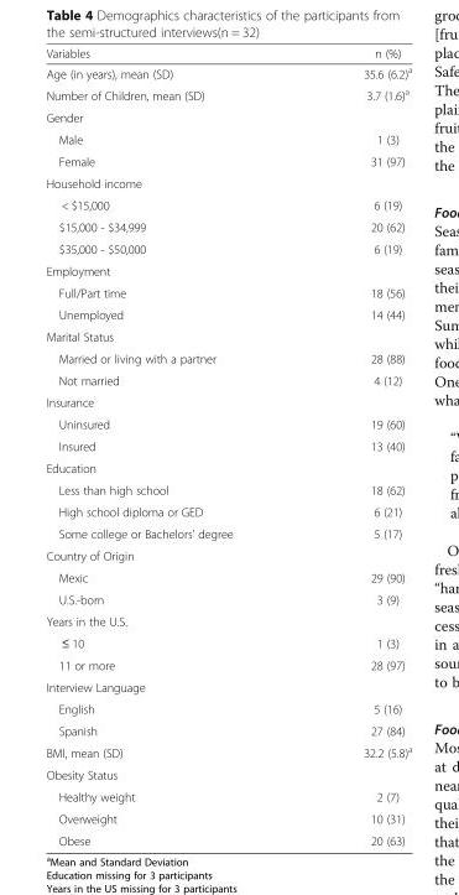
<table><thead><tr><td>Variables</td><td>n (%)</td></tr></thead><tbody><tr><td>Age (in years), mean (SD)</td><td>35.6 (6.2)<sup>a</sup></td></tr><tr><td>Number of Children, mean (SD)</td><td>3.7 (1.6)<sup>a</sup></td></tr><tr><td colspan="2">Gender</td></tr><tr><td>Male</td><td>1 (3)</td></tr><tr><td>Female</td><td>31 (97)</td></tr><tr><td colspan="2">Household income</td></tr><tr><td>&lt; $15,000</td><td>6 (19)</td></tr><tr><td>$15,000 - $34,999</td><td>20 (62)</td></tr><tr><td>$35,000 - $50,000</td><td>6 (19)</td></tr><tr><td colspan="2">Employment</td></tr><tr><td>Full/Part time</td><td>18 (56)</td></tr><tr><td>Unemployed</td><td>14 (44)</td></tr><tr><td colspan="2">Marital Status</td></tr><tr><td>Married or living with a partner</td><td>28 (88)</td></tr><tr><td>Not married</td><td>4 (12)</td></tr><tr><td colspan="2">Insurance</td></tr><tr><td>Uninsured</td><td>19 (60)</td></tr><tr><td>Insured</td><td>13 (40)</td></tr><tr><td colspan="2">Education</td></tr><tr><td>Less than high school</td><td>18 (62)</td></tr><tr><td>High school diploma or GED</td><td>6 (21)</td></tr><tr><td>Some college or Bachelors’ degree</td><td>5 (17)</td></tr><tr><td colspan="2">Country of Origin</td></tr><tr><td>Mexic</td><td>29 (90)</td></tr><tr><td>U.S.-born</td><td>3 (9)</td></tr><tr><td colspan="2">Years in the U.S.</td></tr><tr><td>≤ 10</td><td>1 (3)</td></tr><tr><td>11 or more</td><td>28 (97)</td></tr><tr><td colspan="2">Interview Language</td></tr><tr><td>English</td><td>5 (16)</td></tr><tr><td>Spanish</td><td>27 (84)</td></tr><tr><td>BMI, mean (SD)</td><td>32.2 (5.8)<sup>a</sup></td></tr><tr><td colspan="2">Obesity Status</td></tr><tr><td>Healthy weight</td><td>2 (7)</td></tr><tr><td>Overweight</td><td>10 (31)</td></tr><tr><td>Obese</td><td>20 (63)</td></tr></tbody></table>